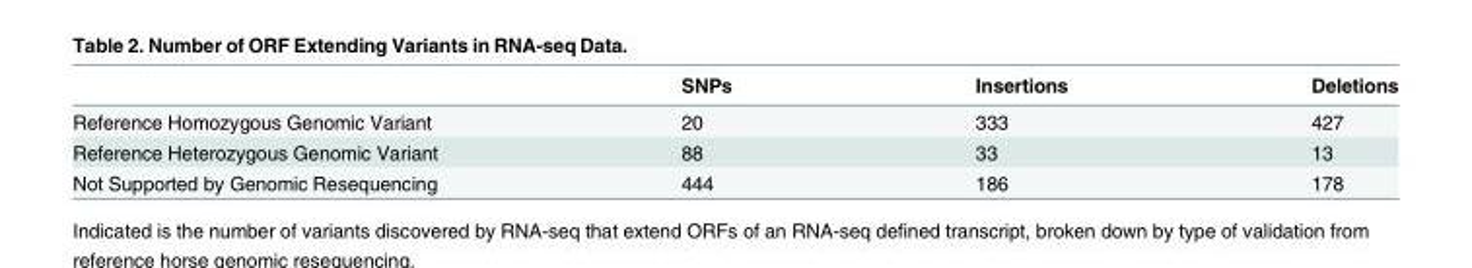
<table><thead><tr><td></td><td>SNPs</td><td>Insertions</td><td>Deletions</td></tr></thead><tbody><tr><td>Reference Homozygous Genomic Variant</td><td>20</td><td>333</td><td>427</td></tr><tr><td>Reference Heterozygous Genomic Variant</td><td>88</td><td>33</td><td>13</td></tr><tr><td>Not Supported by Genomic Resequencing</td><td>444</td><td>186</td><td>178</td></tr></tbody></table>